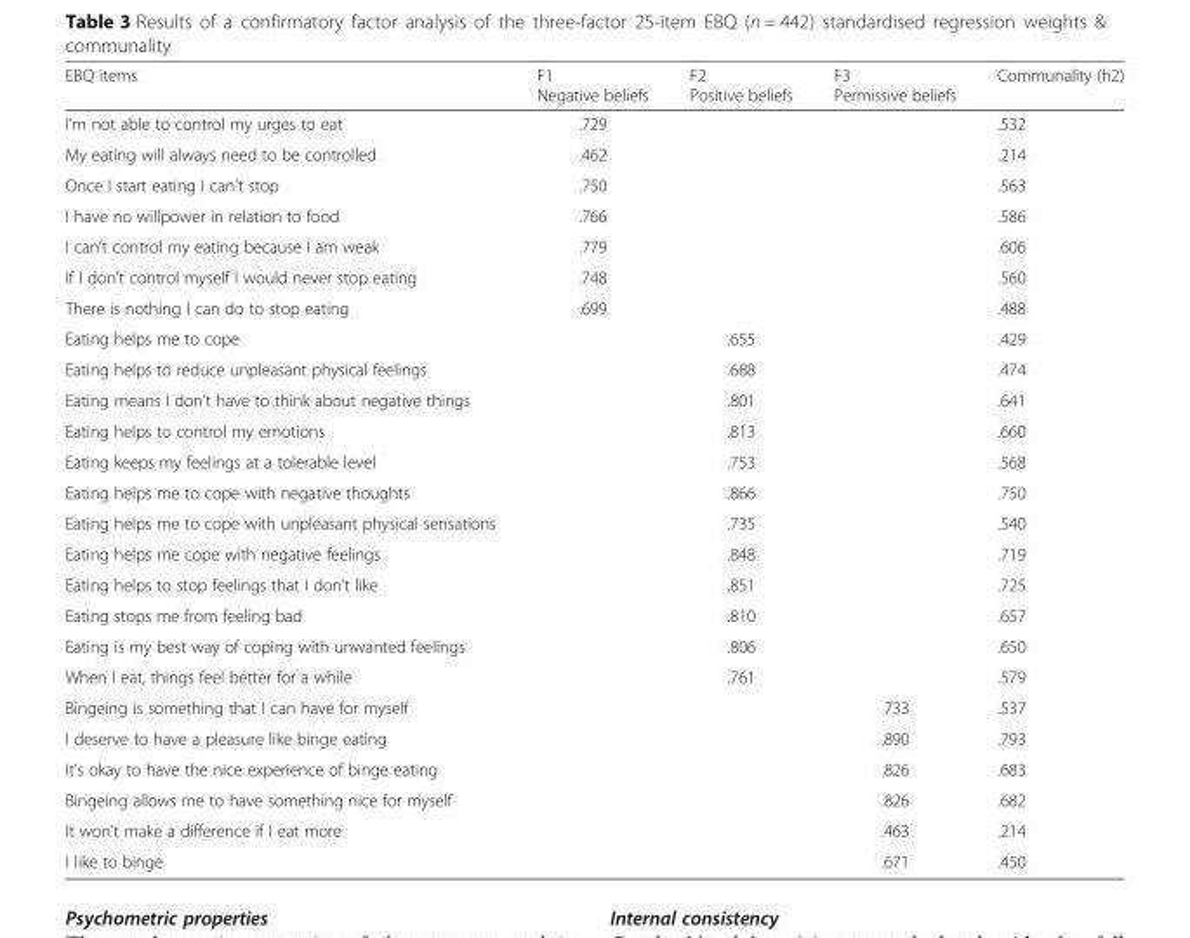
<table><thead><tr><td>EBQ items</td><td>F1 Negative beliefs</td><td>F2 Positive beliefs</td><td>F3 Permissive beliefs</td><td>Communality (h2)</td></tr></thead><tbody><tr><td>I’m not able to control my urges to eat</td><td>.729</td><td></td><td></td><td>.532</td></tr><tr><td>My eating will always need to be controlled</td><td>.462</td><td></td><td></td><td>.214</td></tr><tr><td>Once I start eating I can’t stop</td><td>.750</td><td></td><td></td><td>.563</td></tr><tr><td>I have no willpower in relation to food</td><td>.766</td><td></td><td></td><td>.586</td></tr><tr><td>I can’t control my eating because I am weak</td><td>.779</td><td></td><td></td><td>.606</td></tr><tr><td>If I don’t control myself I would never stop eating</td><td>.748</td><td></td><td></td><td>.560</td></tr><tr><td>There is nothing I can do to stop eating</td><td>.699</td><td></td><td></td><td>.488</td></tr><tr><td>Eating helps me to cope</td><td></td><td>.655</td><td></td><td>.429</td></tr><tr><td>Eating helps to reduce unpleasant physical feelings</td><td></td><td>.688</td><td></td><td>.474</td></tr><tr><td>Eating means I don’t have to think about negative things</td><td></td><td>.801</td><td></td><td>.641</td></tr><tr><td>Eating helps to control my emotions</td><td></td><td>.813</td><td></td><td>.660</td></tr><tr><td>Eating keeps my feelings at a tolerable level</td><td></td><td>.753</td><td></td><td>.568</td></tr><tr><td>Eating helps me to cope with negative thoughts</td><td></td><td>.866</td><td></td><td>.750</td></tr><tr><td>Eating helps me to cope with unpleasant physical sensations</td><td></td><td>.735</td><td></td><td>.540</td></tr><tr><td>Eating helps me cope with negative feelings</td><td></td><td>.848</td><td></td><td>.719</td></tr><tr><td>Eating helps to stop feelings that I don’t like</td><td></td><td>.851</td><td></td><td>.725</td></tr><tr><td>Eating stops me from feeling bad</td><td></td><td>.810</td><td></td><td>.657</td></tr><tr><td>Eating is my best way of coping with unwanted feelings</td><td></td><td>.806</td><td></td><td>.650</td></tr><tr><td>When I eat, things feel better for a while</td><td></td><td>.761</td><td></td><td>.579</td></tr><tr><td>Bingeing is something that I can have for myself</td><td></td><td></td><td>.733</td><td>.537</td></tr><tr><td>I deserve to have a pleasure like binge eating</td><td></td><td></td><td>.890</td><td>.793</td></tr><tr><td>It’s okay to have the nice experience of binge eating</td><td></td><td></td><td>.826</td><td>.683</td></tr><tr><td>Bingeing allows me to have something nice for myself</td><td></td><td></td><td>.826</td><td>.682</td></tr><tr><td>It won’t make a difference if I eat more</td><td></td><td></td><td>.463</td><td>.214</td></tr><tr><td>I like to binge</td><td></td><td></td><td>.671</td><td>.450</td></tr></tbody></table>